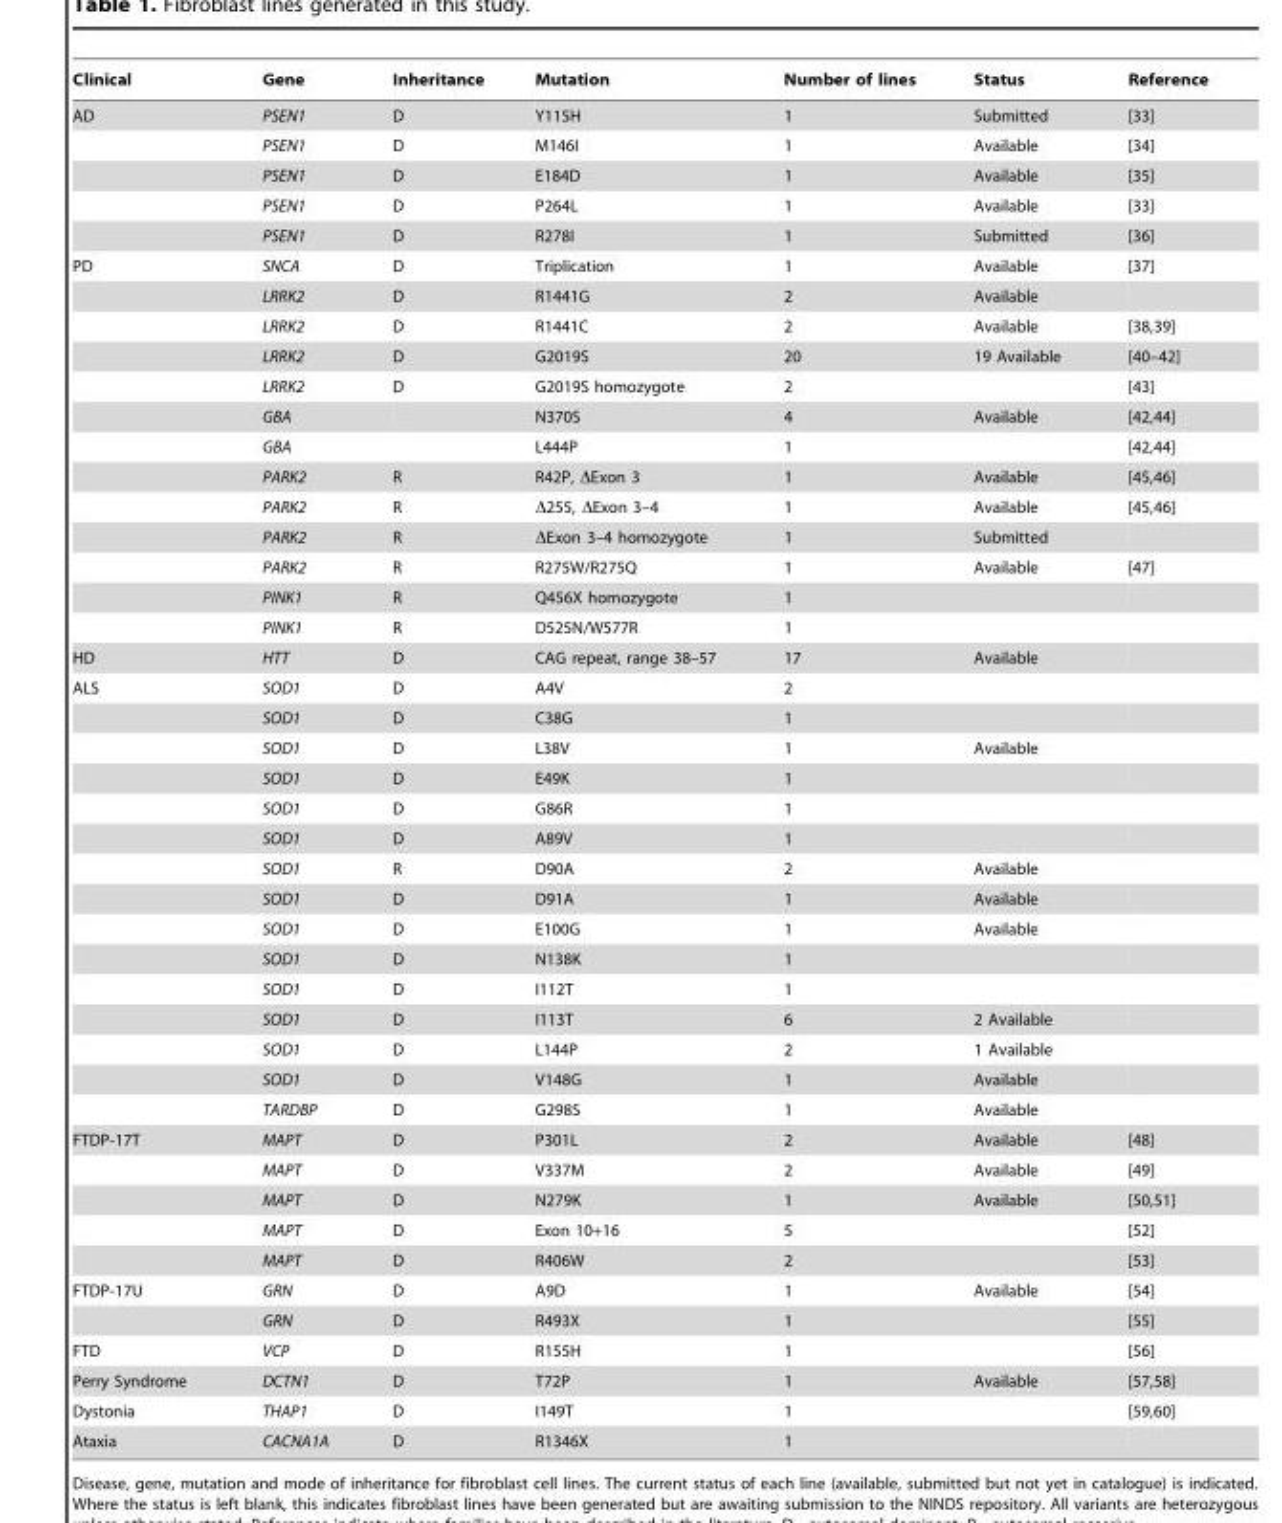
<table><thead><tr><td>Clinical</td><td>Gene</td><td>Inheritance</td><td>Mutation</td><td>Number of lines</td><td>Status</td><td>Reference</td></tr></thead><tbody><tr><td rowspan="5">AD</td><td>PSEN1</td><td>D</td><td>Y115H</td><td>1</td><td>Submitted</td><td>[33]</td></tr><tr><td>PSEN1</td><td>D</td><td>M146I</td><td>1</td><td>Available</td><td>[34]</td></tr><tr><td>PSEN1</td><td>D</td><td>E184D</td><td>1</td><td>Available</td><td>[35]</td></tr><tr><td>PSEN1</td><td>D</td><td>P264L</td><td>1</td><td>Available</td><td>[33]</td></tr><tr><td>PSEN1</td><td>D</td><td>R278I</td><td>1</td><td>Submitted</td><td>[36]</td></tr><tr><td rowspan="13">PD</td><td>SNCA</td><td>D</td><td>Triplication</td><td>1</td><td>Available</td><td>[37]</td></tr><tr><td>LRRK2</td><td>D</td><td>R1441G</td><td>2</td><td>Available</td><td></td></tr><tr><td>LRRK2</td><td>D</td><td>R1441C</td><td>2</td><td>Available</td><td>[38,39]</td></tr><tr><td>LRRK2</td><td>D</td><td>G2019S</td><td>20</td><td>19 Available</td><td>[40–42]</td></tr><tr><td>LRRK2</td><td>D</td><td>G2019S homozygote</td><td>2</td><td></td><td>[43]</td></tr><tr><td>GBA</td><td></td><td>N370S</td><td>4</td><td>Available</td><td>[42,44]</td></tr><tr><td>GBA</td><td></td><td>L444P</td><td>1</td><td></td><td>[42,44]</td></tr><tr><td>PARK2</td><td>R</td><td>R42P, ΔExon 3</td><td>1</td><td>Available</td><td>[45,46]</td></tr><tr><td>PARK2</td><td>R</td><td>Δ255, ΔExon 3–4</td><td>1</td><td>Available</td><td>[45,46]</td></tr><tr><td>PARK2</td><td>R</td><td>ΔExon 3–4 homozygote</td><td>1</td><td>Submitted</td><td></td></tr><tr><td>PARK2</td><td>R</td><td>R275W/R275Q</td><td>1</td><td>Available</td><td>[47]</td></tr><tr><td>PINK1</td><td>R</td><td>Q456X homozygote</td><td>1</td><td></td><td></td></tr><tr><td>PINK1</td><td>R</td><td>D525N/W577R</td><td>1</td><td></td><td></td></tr><tr><td>HD</td><td>HTT</td><td>D</td><td>CAG repeat, range 38–57</td><td>17</td><td>Available</td><td></td></tr><tr><td rowspan="15">ALS</td><td>SOD1</td><td>D</td><td>A4V</td><td>2</td><td></td><td></td></tr><tr><td>SOD1</td><td>D</td><td>C38G</td><td>1</td><td></td><td></td></tr><tr><td>SOD1</td><td>D</td><td>L38V</td><td>1</td><td>Available</td><td></td></tr><tr><td>SOD1</td><td>D</td><td>E49K</td><td>1</td><td></td><td></td></tr><tr><td>SOD1</td><td>D</td><td>G86R</td><td>1</td><td></td><td></td></tr><tr><td>SOD1</td><td>D</td><td>A89V</td><td>1</td><td></td><td></td></tr><tr><td>SOD1</td><td>R</td><td>D90A</td><td>2</td><td>Available</td><td></td></tr><tr><td>SOD1</td><td>D</td><td>D91A</td><td>1</td><td>Available</td><td></td></tr><tr><td>SOD1</td><td>D</td><td>E100G</td><td>1</td><td>Available</td><td></td></tr><tr><td>SOD1</td><td>D</td><td>N138K</td><td>1</td><td></td><td></td></tr><tr><td>SOD1</td><td>D</td><td>I112T</td><td>1</td><td></td><td></td></tr><tr><td>SOD1</td><td>D</td><td>I113T</td><td>6</td><td>2 Available</td><td></td></tr><tr><td>SOD1</td><td>D</td><td>L144P</td><td>2</td><td>1 Available</td><td></td></tr><tr><td>SOD1</td><td>D</td><td>V148G</td><td>1</td><td>Available</td><td></td></tr><tr><td>TARDBP</td><td>D</td><td>G298S</td><td>1</td><td>Available</td><td></td></tr><tr><td rowspan="5">FTDP-17T</td><td>MAPT</td><td>D</td><td>P301L</td><td>2</td><td>Available</td><td>[48]</td></tr><tr><td>MAPT</td><td>D</td><td>V337M</td><td>2</td><td>Available</td><td>[49]</td></tr><tr><td>MAPT</td><td>D</td><td>N279K</td><td>1</td><td>Available</td><td>[50,51]</td></tr><tr><td>MAPT</td><td>D</td><td>Exon 10+16</td><td>5</td><td></td><td>[52]</td></tr><tr><td>MAPT</td><td>D</td><td>R406W</td><td>2</td><td></td><td>[53]</td></tr><tr><td rowspan="2">FTDP-17U</td><td>GRN</td><td>D</td><td>A9D</td><td>1</td><td>Available</td><td>[54]</td></tr><tr><td>GRN</td><td>D</td><td>R493X</td><td>1</td><td></td><td>[55]</td></tr><tr><td>FTD</td><td>VCP</td><td>D</td><td>R155H</td><td>1</td><td></td><td>[56]</td></tr><tr><td>Perry Syndrome</td><td>DCTN1</td><td>D</td><td>T72P</td><td>1</td><td>Available</td><td>[57,58]</td></tr><tr><td>Dystonia</td><td>THAP1</td><td>D</td><td>I149T</td><td>1</td><td></td><td>[59,60]</td></tr><tr><td>Ataxia</td><td>CACNA1A</td><td>D</td><td>R1346X</td><td>1</td><td></td><td></td></tr></tbody></table>